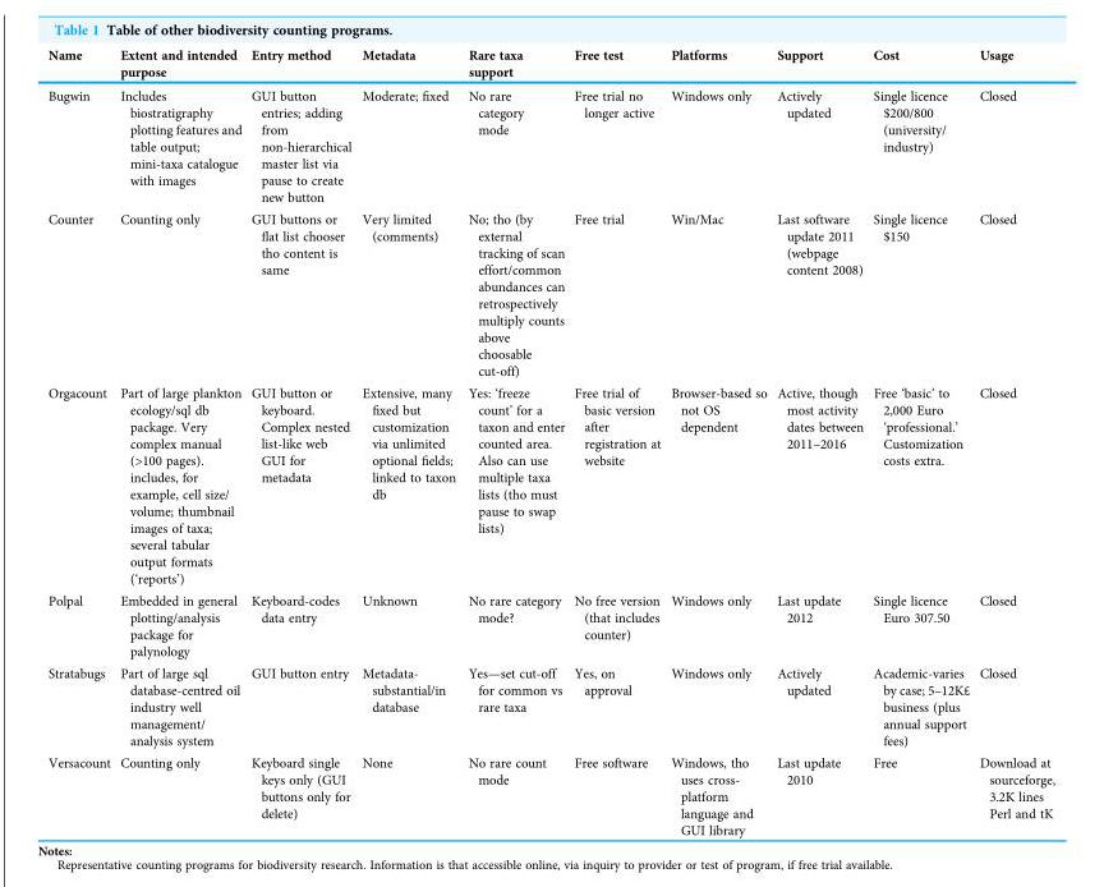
<table><thead><tr><td>Name</td><td>Extent and intended purpose</td><td>Entry method</td><td>Metadata</td><td>Rare taxa support</td><td>Free test</td><td>Platforms</td><td>Support</td><td>Cost</td><td>Usage</td></tr></thead><tbody><tr><td>Bugwin</td><td>Includes biostratigraphy plotting features and table output; mini-taxa catalogue with images</td><td>GUI button entries; adding from non-hierarchical master list via pause to create new button</td><td>Moderate; fixed</td><td>No rare category mode</td><td>Free trial no longer active</td><td>Windows only</td><td>Actively updated</td><td>Single licence $200/800 (university/ industry)</td><td>Closed</td></tr><tr><td>Counter</td><td>Counting only</td><td>GUI buttons or flat list chooser tho content is same</td><td>Very limited (comments)</td><td>No; tho (by external tracking of scan effort/common abundances can retrospectively multiply counts above choosable cut-off)</td><td>Free trial</td><td>Win/Mac</td><td>Last software update 2011 (webpage content 2008)</td><td>Single licence $150</td><td>Closed</td></tr><tr><td>Orgacount</td><td>Part of large plankton ecology/sql db package. Very complex manual (&gt;100 pages). includes, for example, cell size/ volume; thumbnail images of taxa; several tabular output formats (‘reports’)</td><td>GUI button or keyboard. Complex nested list-like web GUI for metadata</td><td>Extensive, many fixed but customization via unlimited optional fields; linked to taxon db</td><td>Yes: ‘freeze count’ for a taxon and enter counted area. Also can use multiple taxa lists (tho must pause to swap lists)</td><td>Free trial of basic version after registration at website</td><td>Browser-based so not OS dependent</td><td>Active, though most activity dates between 2011–2016</td><td>Free ‘basic’ to 2,000 Euro ‘professional.’ Customization costs extra.</td><td>Closed</td></tr><tr><td>Polpal</td><td>Embedded in general plotting/analysis package for palynology</td><td>Keyboard-codes data entry</td><td>Unknown</td><td>No rare category mode?</td><td>No free version (that includes counter)</td><td>Windows only</td><td>Last update 2012</td><td>Single licence Euro 307.50</td><td>Closed</td></tr><tr><td>Stratabugs</td><td>Part of large sql database-centred oil industry well management/ analysis system</td><td>GUI button entry</td><td>Metadata- substantial/in database</td><td>Yes—set cut-off for common vs rare taxa</td><td>Yes, on approval</td><td>Windows only</td><td>Actively updated</td><td>Academic-varies by case; 5–12K£ business (plus annual support fees)</td><td>Closed</td></tr><tr><td>Versacount</td><td>Counting only</td><td>Keyboard single keys only (GUI buttons only for delete)</td><td>None</td><td>No rare count mode</td><td>Free software</td><td>Windows, tho uses cross- platform language and GUI library</td><td>Last update 2010</td><td>Free</td><td>Download at sourceforge, 3.2K lines Perl and tK</td></tr></tbody></table>